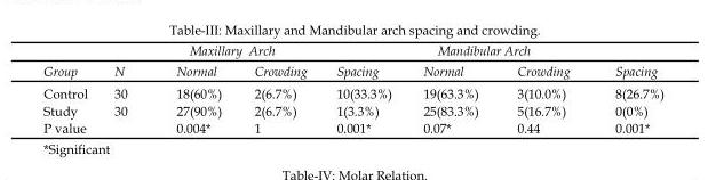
<table><thead><tr><td rowspan="2">Group</td><td rowspan="2">N</td><td colspan="3">Maxillary Arch</td><td colspan="3">Mandibular Arch</td></tr><tr><td>Normal</td><td>Crowding</td><td>Spacing</td><td>Normal</td><td>Crowding</td><td>Spacing</td></tr></thead><tbody><tr><td>Control</td><td>30</td><td>18(60%)</td><td>2(6.7%)</td><td>10(33.3%)</td><td>19(63.3%)</td><td>3(10.0%)</td><td>8(26.7%)</td></tr><tr><td>Study</td><td>30</td><td>27(90%)</td><td>2(6.7%)</td><td>1(3.3%)</td><td>25(83.3%)</td><td>5(16.7%)</td><td>0(0%)</td></tr><tr><td>P value</td><td></td><td>0.004*</td><td>1</td><td>0.001*</td><td>0.07*</td><td>0.44</td><td>0.001*</td></tr></tbody></table>